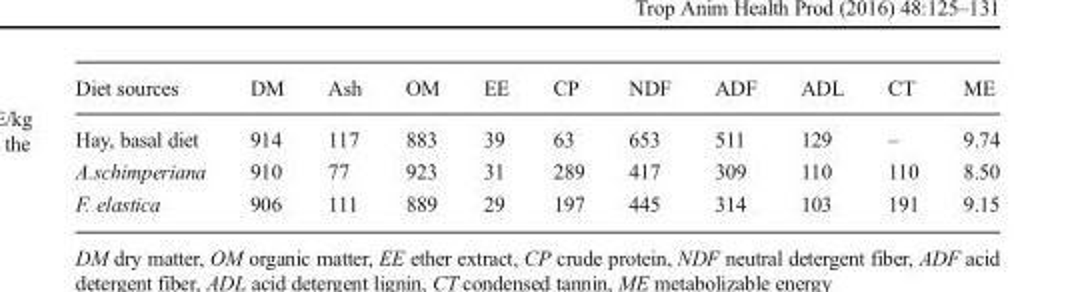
<table><thead><tr><td>Diet sources</td><td>DM</td><td>Ash</td><td>OM</td><td>EE</td><td>CP</td><td>NDF</td><td>ADF</td><td>ADL</td><td>CT</td><td>ME</td></tr></thead><tbody><tr><td>Hay, basal diet</td><td>914</td><td>117</td><td>883</td><td>39</td><td>63</td><td>653</td><td>511</td><td>129</td><td>–</td><td>9.74</td></tr><tr><td>A.schimperiana</td><td>910</td><td>77</td><td>923</td><td>31</td><td>289</td><td>417</td><td>309</td><td>110</td><td>110</td><td>8.50</td></tr><tr><td>F. elastica</td><td>906</td><td>111</td><td>889</td><td>29</td><td>197</td><td>445</td><td>314</td><td>103</td><td>191</td><td>9.15</td></tr></tbody></table>